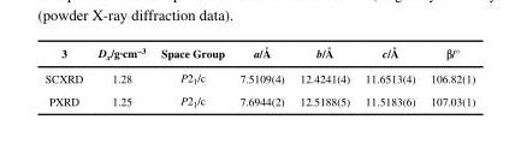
<table><thead><tr><td>3</td><td>D<sub>x</sub>/g·cm<sup>−3</sup></td><td>Space Group</td><td>a/Å</td><td>b/Å</td><td>c/Å</td><td>β/°</td></tr></thead><tbody><tr><td>SCXRD</td><td>1.28</td><td>P2<sub>1</sub>/c</td><td>7.5109(4)</td><td>12.4241(4)</td><td>11.6513(4)</td><td>106.82(1)</td></tr><tr><td>PXRD</td><td>1.25</td><td>P2<sub>1</sub>/c</td><td>7.6944(2)</td><td>12.5188(5)</td><td>11.5183(6)</td><td>107.03(1)</td></tr></tbody></table>